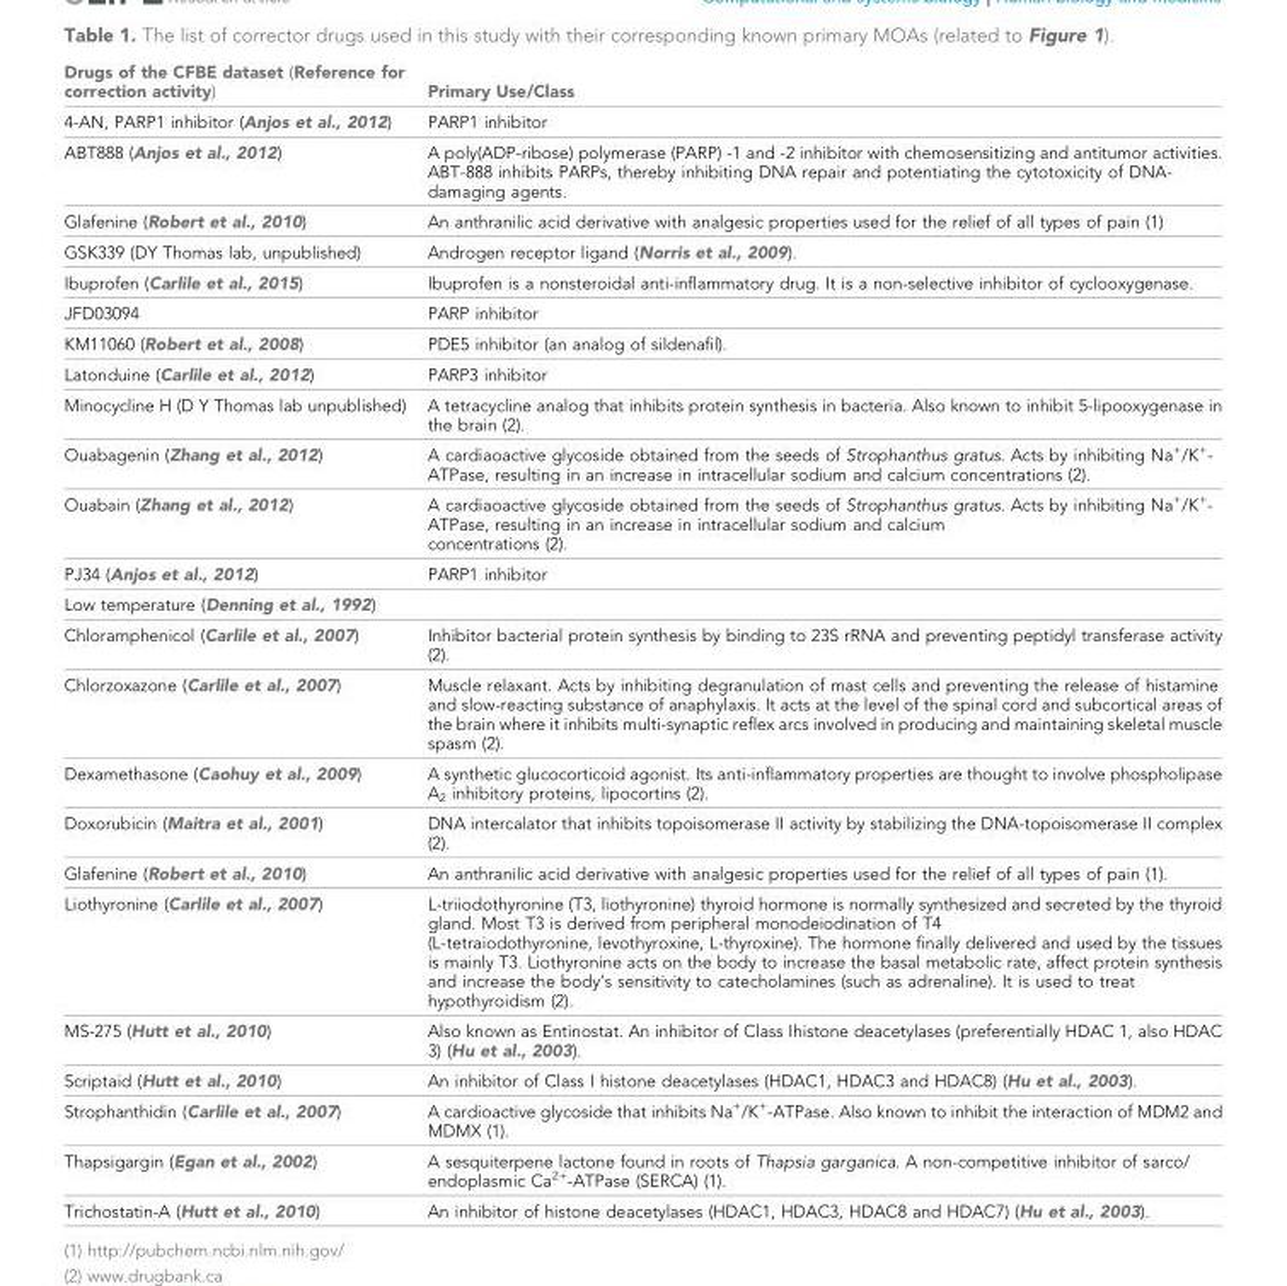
<table><thead><tr><td>Drugs of the CFBE dataset (Reference for correction activity)</td><td>Primary Use/Class</td></tr></thead><tbody><tr><td>4-AN, PARP1 inhibitor (Anjos et al., 2012)</td><td>PARP1 inhibitor</td></tr><tr><td>ABT888 (Anjos et al., 2012)</td><td>A poly(ADP-ribose) polymerase (PARP) -1 and -2 inhibitor with chemosensitizing and antitumor activities. ABT-888 inhibits PARPs, thereby inhibiting DNA repair and potentiating the cytotoxicity of DNA- damaging agents.</td></tr><tr><td>Glafenine (Robert et al., 2010)</td><td>An anthranilic acid derivative with analgesic properties used for the relief of all types of pain (1)</td></tr><tr><td>GSK339 (DY Thomas lab, unpublished)</td><td>Androgen receptor ligand (Norris et al., 2009).</td></tr><tr><td>Ibuprofen (Carlile et al., 2015)</td><td>Ibuprofen is a nonsteroidal anti-inflammatory drug. It is a non-selective inhibitor of cyclooxygenase.</td></tr><tr><td>JFD03094</td><td>PARP inhibitor</td></tr><tr><td>KM11060 (Robert et al., 2008)</td><td>PDE5 inhibitor (an analog of sildenafil).</td></tr><tr><td>Latonduine (Carlile et al., 2012)</td><td>PARP3 inhibitor</td></tr><tr><td>Minocycline H (D Y Thomas lab unpublished)</td><td>A tetracycline analog that inhibits protein synthesis in bacteria. Also known to inhibit 5-lipooxygenase in the brain (2).</td></tr><tr><td>Ouabagenin (Zhang et al., 2012)</td><td>A cardiaoactive glycoside obtained from the seeds of Strophanthus gratus. Acts by inhibiting Na<sup>+</sup>/K<sup>+</sup>- ATPase, resulting in an increase in intracellular sodium and calcium concentrations (2).</td></tr><tr><td>Ouabain (Zhang et al., 2012)</td><td>A cardiaoactive glycoside obtained from the seeds of Strophanthus gratus. Acts by inhibiting Na<sup>+</sup>/K<sup>+</sup>- ATPase, resulting in an increase in intracellular sodium and calcium concentrations (2).</td></tr><tr><td>PJ34 (Anjos et al., 2012)</td><td>PARP1 inhibitor</td></tr><tr><td colspan="2">Low temperature (Denning et al., 1992)</td></tr><tr><td>Chloramphenicol (Carlile et al., 2007)</td><td>Inhibitor bacterial protein synthesis by binding to 23S rRNA and preventing peptidyl transferase activity (2).</td></tr><tr><td>Chlorzoxazone (Carlile et al., 2007)</td><td>Muscle relaxant. Acts by inhibiting degranulation of mast cells and preventing the release of histamine and slow-reacting substance of anaphylaxis. It acts at the level of the spinal cord and subcortical areas of the brain where it inhibits multi-synaptic reflex arcs involved in producing and maintaining skeletal muscle spasm (2).</td></tr><tr><td>Dexamethasone (Caohuy et al., 2009)</td><td>A synthetic glucocorticoid agonist. Its anti-inflammatory properties are thought to involve phospholipase A<sub>2</sub> inhibitory proteins, lipocortins (2).</td></tr><tr><td>Doxorubicin (Maitra et al., 2001)</td><td>DNA intercalator that inhibits topoisomerase II activity by stabilizing the DNA-topoisomerase II complex (2).</td></tr><tr><td>Glafenine (Robert et al., 2010)</td><td>An anthranilic acid derivative with analgesic properties used for the relief of all types of pain (1).</td></tr><tr><td>Liothyronine (Carlile et al., 2007)</td><td>L-triiodothyronine (T3, liothyronine) thyroid hormone is normally synthesized and secreted by the thyroid gland. Most T3 is derived from peripheral monodeiodination of T4 (L-tetraiodothyronine, levothyroxine, L-thyroxine). The hormone finally delivered and used by the tissues is mainly T3. Liothyronine acts on the body to increase the basal metabolic rate, affect protein synthesis and increase the body’s sensitivity to catecholamines (such as adrenaline). It is used to treat hypothyroidism (2).</td></tr><tr><td>MS-275 (Hutt et al., 2010)</td><td>Also known as Entinostat. An inhibitor of Class Ihistone deacetylases (preferentially HDAC 1, also HDAC 3) (Hu et al., 2003).</td></tr><tr><td>Scriptaid (Hutt et al., 2010)</td><td>An inhibitor of Class I histone deacetylases (HDAC1, HDAC3 and HDAC8) (Hu et al., 2003).</td></tr><tr><td>Strophanthidin (Carlile et al., 2007)</td><td>A cardioactive glycoside that inhibits Na<sup>+</sup>/K<sup>+</sup>-ATPase. Also known to inhibit the interaction of MDM2 and MDMX (1).</td></tr><tr><td>Thapsigargin (Egan et al., 2002)</td><td>A sesquiterpene lactone found in roots of Thapsia garganica. A non-competitive inhibitor of sarco/ endoplasmic Ca<sup>2+</sup>-ATPase (SERCA) (1).</td></tr><tr><td>Trichostatin-A (Hutt et al., 2010)</td><td>An inhibitor of histone deacetylases (HDAC1, HDAC3, HDAC8 and HDAC7) (Hu et al., 2003).</td></tr></tbody></table>